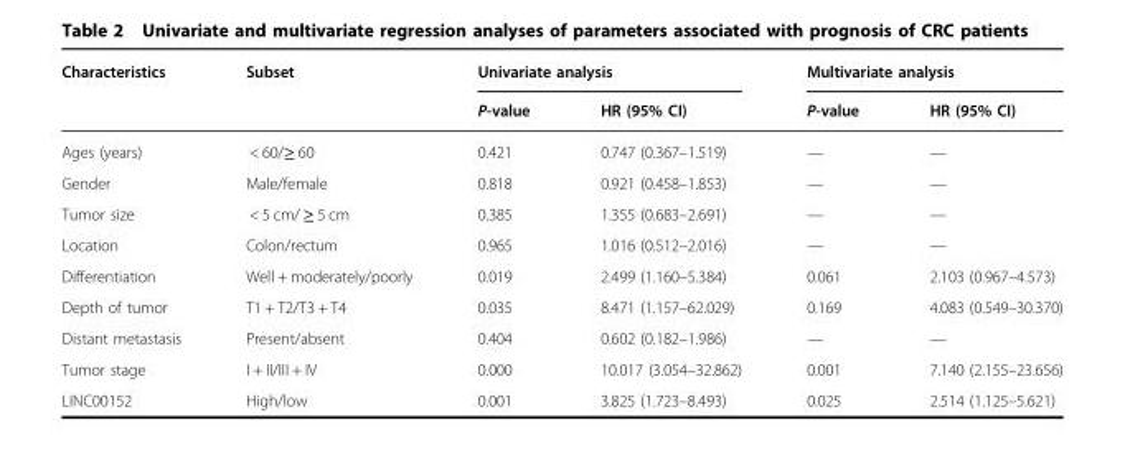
<table><thead><tr><td rowspan="2">Characteristics</td><td rowspan="2">Subset</td><td colspan="2">Univariate analysis</td><td colspan="2">Multivariate analysis</td></tr><tr><td>P-value</td><td>HR (95% CI)</td><td>P-value</td><td>HR (95% CI)</td></tr></thead><tbody><tr><td>Ages (years)</td><td>&lt; 60/≥ 60</td><td>0.421</td><td>0.747 (0.367–1.519)</td><td>—</td><td>—</td></tr><tr><td>Gender</td><td>Male/female</td><td>0.818</td><td>0.921 (0.458–1.853)</td><td>—</td><td>—</td></tr><tr><td>Tumor size</td><td>&lt; 5 cm/ ≥ 5 cm</td><td>0.385</td><td>1.355 (0.683–2.691)</td><td>—</td><td>—</td></tr><tr><td>Location</td><td>Colon/rectum</td><td>0.965</td><td>1.016 (0.512–2.016)</td><td>—</td><td>—</td></tr><tr><td>Differentiation</td><td>Well + moderately/poorly</td><td>0.019</td><td>2.499 (1.160–5.384)</td><td>0.061</td><td>2.103 (0.967–4.573)</td></tr><tr><td>Depth of tumor</td><td>T1 + T2/T3 + T4</td><td>0.035</td><td>8.471 (1.157–62.029)</td><td>0.169</td><td>4.083 (0.549–30.370)</td></tr><tr><td>Distant metastasis</td><td>Present/absent</td><td>0.404</td><td>0.602 (0.182–1.986)</td><td>—</td><td>—</td></tr><tr><td>Tumor stage</td><td>I + II/III + IV</td><td>0.000</td><td>10.017 (3.054–32.862)</td><td>0.001</td><td>7.140 (2.155–23.656)</td></tr><tr><td>LINC00152</td><td>High/low</td><td>0.001</td><td>3.825 (1.723–8.493)</td><td>0.025</td><td>2.514 (1.125–5.621)</td></tr></tbody></table>